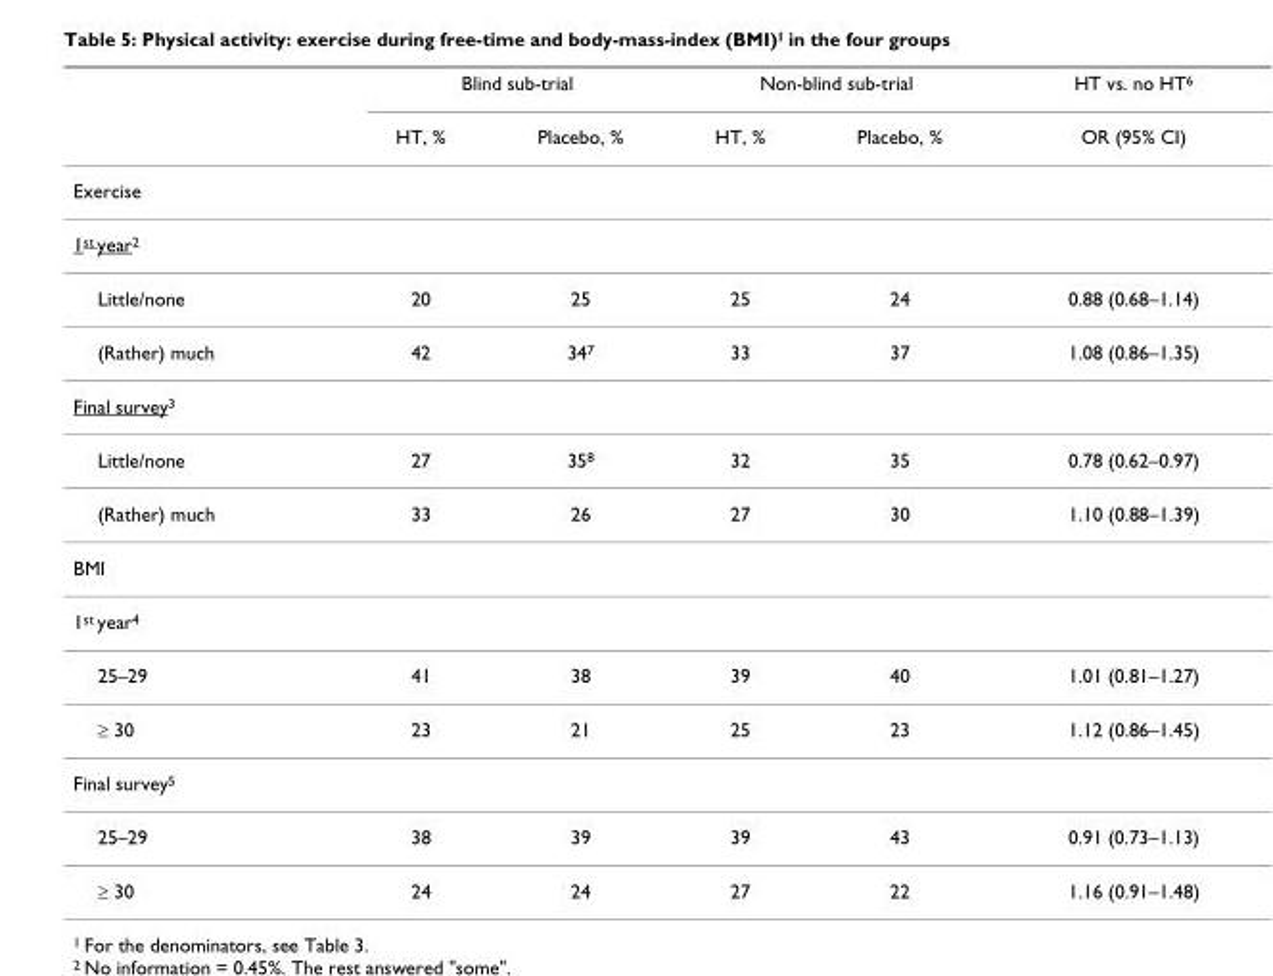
<table><thead><tr><td rowspan="2"></td><td colspan="2">Blind sub-trial</td><td colspan="2">Non-blind sub-trial</td><td rowspan="2">HT vs. no HT<sup>6</sup> OR (95% CI)</td></tr><tr><td>HT, %</td><td>Placebo, %</td><td>HT, %</td><td>Placebo, %</td></tr></thead><tbody><tr><td colspan="6">Exercise</td></tr><tr><td colspan="6">1<sup>st</sup> year<sup>2</sup></td></tr><tr><td>Little/none</td><td>20</td><td>25</td><td>25</td><td>24</td><td>0.88 (0.68–1.14)</td></tr><tr><td>(Rather) much</td><td>42</td><td>34<sup>7</sup></td><td>33</td><td>37</td><td>1.08 (0.86–1.35)</td></tr><tr><td colspan="6">Final survey<sup>3</sup></td></tr><tr><td>Little/none</td><td>27</td><td>35<sup>8</sup></td><td>32</td><td>35</td><td>0.78 (0.62–0.97)</td></tr><tr><td>(Rather) much</td><td>33</td><td>26</td><td>27</td><td>30</td><td>1.10 (0.88–1.39)</td></tr><tr><td colspan="6">BMI</td></tr><tr><td colspan="6">1<sup>st</sup> year<sup>4</sup></td></tr><tr><td>25–29</td><td>41</td><td>38</td><td>39</td><td>40</td><td>1.01 (0.81–1.27)</td></tr><tr><td>≥ 30</td><td>23</td><td>21</td><td>25</td><td>23</td><td>1.12 (0.86–1.45)</td></tr><tr><td colspan="6">Final survey<sup>5</sup></td></tr><tr><td>25–29</td><td>38</td><td>39</td><td>39</td><td>43</td><td>0.91 (0.73–1.13)</td></tr><tr><td>≥ 30</td><td>24</td><td>24</td><td>27</td><td>22</td><td>1.16 (0.91–1.48)</td></tr></tbody></table>